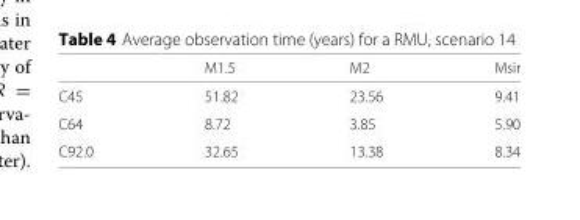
<table><thead><tr><td></td><td>M1.5</td><td>M2</td><td>Msir</td></tr></thead><tbody><tr><td>C45</td><td>51.82</td><td>23.56</td><td>9.41</td></tr><tr><td>C64</td><td>8.72</td><td>3.85</td><td>5.90</td></tr><tr><td>C92.0</td><td>32.65</td><td>13.38</td><td>8.34</td></tr></tbody></table>